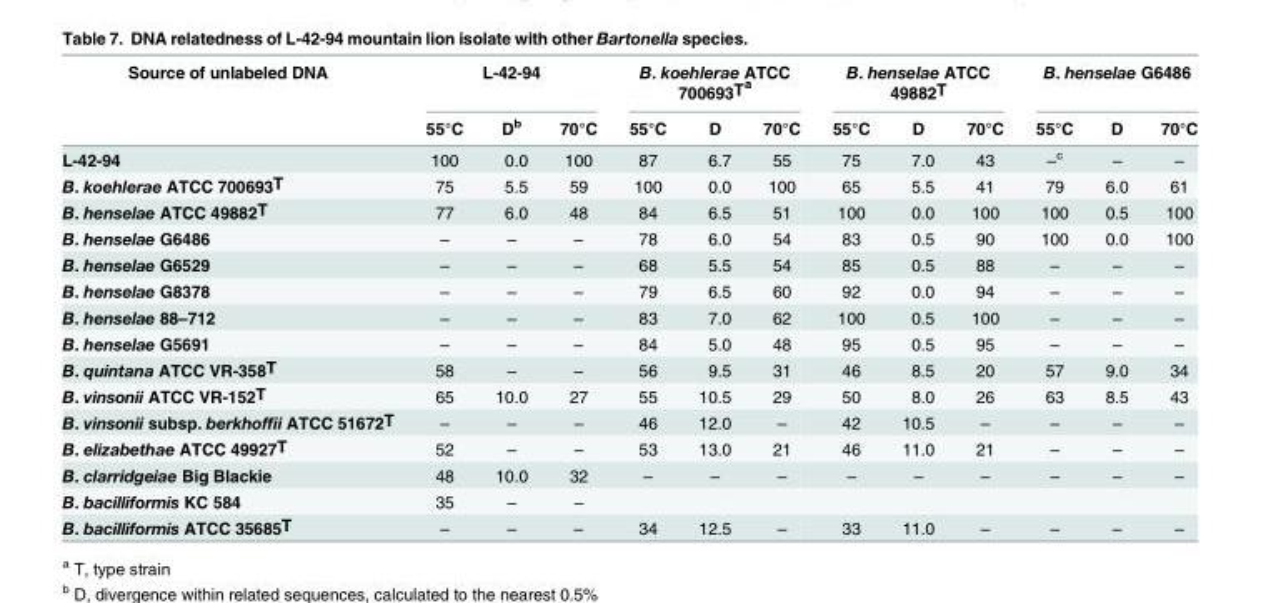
<table><thead><tr><td rowspan="2">Source of unlabeled DNA</td><td colspan="3">L-42-94</td><td colspan="3">B. koehlerae ATCC 700693T<sup>a</sup></td><td colspan="3">B. henselae ATCC 49882T</td><td colspan="3">B. henselae G6486</td></tr><tr><td>55°C</td><td>D<sup>b</sup></td><td>70°C</td><td>55°C</td><td>D</td><td>70°C</td><td>55°C</td><td>D</td><td>70°C</td><td>55°C</td><td>D</td><td>70°C</td></tr></thead><tbody><tr><td>L-42-94</td><td>100</td><td>0.0</td><td>100</td><td>87</td><td>6.7</td><td>55</td><td>75</td><td>7.0</td><td>43</td><td>–<sup>c</sup></td><td>–</td><td>–</td></tr><tr><td>B. koehlerae ATCC 700693T</td><td>75</td><td>5.5</td><td>59</td><td>100</td><td>0.0</td><td>100</td><td>65</td><td>5.5</td><td>41</td><td>79</td><td>6.0</td><td>61</td></tr><tr><td>B. henselae ATCC 49882T</td><td>77</td><td>6.0</td><td>48</td><td>84</td><td>6.5</td><td>51</td><td>100</td><td>0.0</td><td>100</td><td>100</td><td>0.5</td><td>100</td></tr><tr><td>B. henselae G6486</td><td>–</td><td>–</td><td>–</td><td>78</td><td>6.0</td><td>54</td><td>83</td><td>0.5</td><td>90</td><td>100</td><td>0.0</td><td>100</td></tr><tr><td>B. henselae G6529</td><td>–</td><td>–</td><td>–</td><td>68</td><td>5.5</td><td>54</td><td>85</td><td>0.5</td><td>88</td><td>–</td><td>–</td><td>–</td></tr><tr><td>B. henselae G8378</td><td>–</td><td>–</td><td>–</td><td>79</td><td>6.5</td><td>60</td><td>92</td><td>0.0</td><td>94</td><td>–</td><td>–</td><td>–</td></tr><tr><td>B. henselae 88–712</td><td>–</td><td>–</td><td>–</td><td>83</td><td>7.0</td><td>62</td><td>100</td><td>0.5</td><td>100</td><td>–</td><td>–</td><td>–</td></tr><tr><td>B. henselae G5691</td><td>–</td><td>–</td><td>–</td><td>84</td><td>5.0</td><td>48</td><td>95</td><td>0.5</td><td>95</td><td>–</td><td>–</td><td>–</td></tr><tr><td>B. quintana ATCC VR-358T</td><td>58</td><td>–</td><td>–</td><td>56</td><td>9.5</td><td>31</td><td>46</td><td>8.5</td><td>20</td><td>57</td><td>9.0</td><td>34</td></tr><tr><td>B. vinsonii ATCC VR-152T</td><td>65</td><td>10.0</td><td>27</td><td>55</td><td>10.5</td><td>29</td><td>50</td><td>8.0</td><td>26</td><td>63</td><td>8.5</td><td>43</td></tr><tr><td>B. vinsonii subsp. berkhoffii ATCC 51672T</td><td>–</td><td>–</td><td>–</td><td>46</td><td>12.0</td><td>–</td><td>42</td><td>10.5</td><td>–</td><td>–</td><td>–</td><td>–</td></tr><tr><td>B. elizabethae ATCC 49927T</td><td>52</td><td>–</td><td>–</td><td>53</td><td>13.0</td><td>21</td><td>46</td><td>11.0</td><td>21</td><td>–</td><td>–</td><td>–</td></tr><tr><td>B. clarridgeiae Big Blackie</td><td>48</td><td>10.0</td><td>32</td><td>–</td><td>–</td><td>–</td><td>–</td><td>–</td><td>–</td><td>–</td><td>–</td><td>–</td></tr><tr><td>B. bacilliformis KC 584</td><td>35</td><td>–</td><td>–</td><td></td><td></td><td></td><td></td><td></td><td></td><td></td><td></td><td></td></tr><tr><td>B. bacilliformis ATCC 35685T</td><td>–</td><td>–</td><td>–</td><td>34</td><td>12.5</td><td>–</td><td>33</td><td>11.0</td><td>–</td><td>–</td><td>–</td><td>–</td></tr></tbody></table>